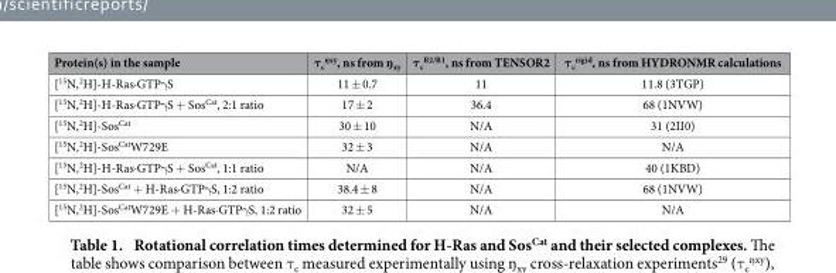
<table><thead><tr><td>Protein(s) in the sample</td><td>τ<sub>c</sub> <sup>ŋxy</sup>, ns from ŋ<sub>xy</sub></td><td>τ<sub>c</sub> <sup>R2/R1</sup>, ns from TENSOR2</td><td>τ<sub>c</sub> <sup>rigid</sup>, ns from HYDRONMR calculations</td></tr></thead><tbody><tr><td>[<sup>15</sup>N,<sup>2</sup>H]-H-Ras·GTPγ S</td><td>11 ± 0.7</td><td>11</td><td>11.8 (3TGP)</td></tr><tr><td>[<sup>15</sup>N,<sup>2</sup>H]-H-Ras·GTPγ S + Sos<sup>Cat</sup>, 2:1 ratio</td><td>17 ± 2</td><td>36.4</td><td>68 (1NVW)</td></tr><tr><td>[<sup>15</sup>N,<sup>2</sup>H]-Sos<sup>Cat</sup></td><td>30 ± 10</td><td>N/A</td><td>31 (2II0)</td></tr><tr><td>[<sup>15</sup>N,<sup>2</sup>H]-Sos<sup>Cat</sup>W729E</td><td>32 ± 3</td><td>N/A</td><td>N/A</td></tr><tr><td>[<sup>15</sup>N,<sup>2</sup>H]-H-Ras·GTPγ S + Sos<sup>Cat</sup>, 1:1 ratio</td><td>N/A</td><td>N/A</td><td>40 (1KBD)</td></tr><tr><td>[<sup>15</sup>N,<sup>2</sup>H]-Sos<sup>Cat</sup> + H-Ras·GTPγ S, 1:2 ratio</td><td>38.4 ± 8</td><td>N/A</td><td>68 (1NVW)</td></tr><tr><td>[<sup>15</sup>N,<sup>2</sup>H]-Sos<sup>Cat</sup>W729E + H-Ras·GTPγ S, 1:2 ratio</td><td>32 ± 5</td><td>N/A</td><td>N/A</td></tr></tbody></table>